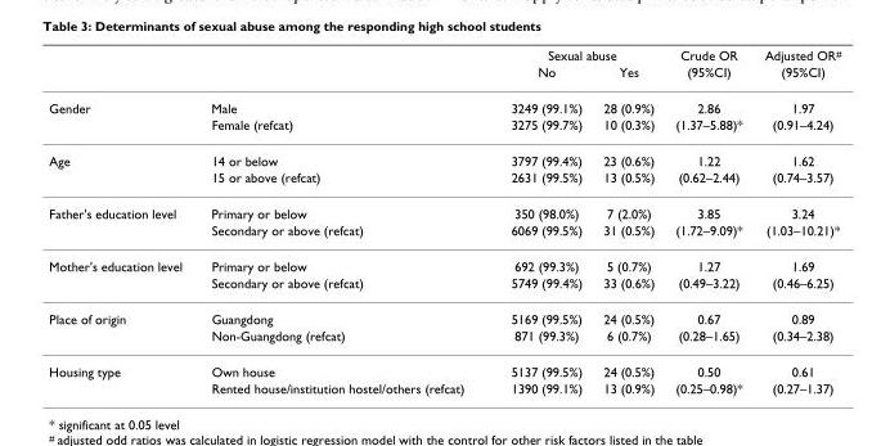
<table><thead><tr><td rowspan="2"></td><td rowspan="2"></td><td colspan="2">Sexual abuse</td><td rowspan="2">Crude OR (95%CI)</td><td rowspan="2">Adjusted OR<sup>#</sup> (95%CI)</td></tr><tr><td>No</td><td>Yes</td></tr></thead><tbody><tr><td rowspan="2">Gender</td><td>Male</td><td>3249 (99.1%)</td><td>28 (0.9%)</td><td>2.86</td><td>1.97</td></tr><tr><td>Female (refcat)</td><td>3275 (99.7%)</td><td>10 (0.3%)</td><td>(1.37–5.88)*</td><td>(0.91–4.24)</td></tr><tr><td rowspan="2">Age</td><td>14 or below</td><td>3797 (99.4%)</td><td>23 (0.6%)</td><td>1.22</td><td>1.62</td></tr><tr><td>15 or above (refcat)</td><td>2631 (99.5%)</td><td>13 (0.5%)</td><td>(0.62–2.44)</td><td>(0.74–3.57)</td></tr><tr><td rowspan="2">Father&#x27;s education level</td><td>Primary or below</td><td>350 (98.0%)</td><td>7 (2.0%)</td><td>3.85</td><td>3.24</td></tr><tr><td>Secondary or above (refcat)</td><td>6069 (99.5%)</td><td>31 (0.5%)</td><td>(1.72–9.09)*</td><td>(1.03–10.21)*</td></tr><tr><td rowspan="2">Mother&#x27;s education level</td><td>Primary or below</td><td>692 (99.3%)</td><td>5 (0.7%)</td><td>1.27</td><td>1.69</td></tr><tr><td>Secondary or above (refcat)</td><td>5749 (99.4%)</td><td>33 (0.6%)</td><td>(0.49–3.22)</td><td>(0.46–6.25)</td></tr><tr><td rowspan="2">Place of origin</td><td>Guangdong</td><td>5169 (99.5%)</td><td>24 (0.5%)</td><td>0.67</td><td>0.89</td></tr><tr><td>Non-Guangdong (refcat)</td><td>871 (99.3%)</td><td>6 (0.7%)</td><td>(0.28–1.65)</td><td>(0.34–2.38)</td></tr><tr><td rowspan="2">Housing type</td><td>Own house</td><td>5137 (99.5%)</td><td>24 (0.5%)</td><td>0.50</td><td>0.61</td></tr><tr><td>Rented house/institution hostel/others (refcat)</td><td>1390 (99.1%)</td><td>13 (0.9%)</td><td>(0.25–0.98)*</td><td>(0.27–1.37)</td></tr></tbody></table>